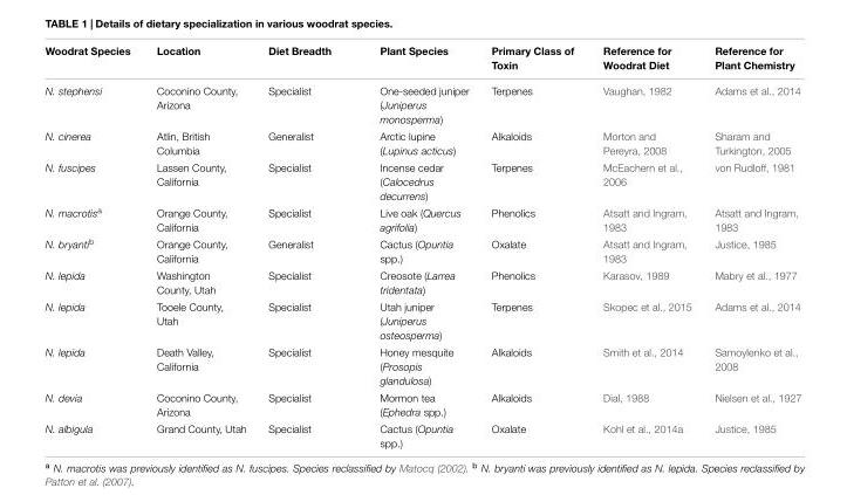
<table><thead><tr><td>Woodrat Species</td><td>Location</td><td>Diet Breadth</td><td>Plant Species</td><td>Primary Class of Toxin</td><td>Reference for Woodrat Diet</td><td>Reference for Plant Chemistry</td></tr></thead><tbody><tr><td>N. stephensi</td><td>Coconino County, Arizona</td><td>Specialist</td><td>One-seeded juniper (Juniperus monosperma)</td><td>Terpenes</td><td>Vaughan, 1982</td><td>Adams et al., 2014</td></tr><tr><td>N. cinerea</td><td>Atlin, British Columbia</td><td>Generalist</td><td>Arctic lupine (Lupinus acticus)</td><td>Alkaloids</td><td>Morton and Pereyra, 2008</td><td>Sharam and Turkington, 2005</td></tr><tr><td>N. fuscipes</td><td>Lassen County, California</td><td>Specialist</td><td>Incense cedar (Calocedrus decurrens)</td><td>Terpenes</td><td>McEachern et al., 2006</td><td>von Rudloff, 1981</td></tr><tr><td>N. macrotis<sup>a</sup></td><td>Orange County, California</td><td>Specialist</td><td>Live oak (Quercus agrifolia)</td><td>Phenolics</td><td>Atsatt and Ingram, 1983</td><td>Atsatt and Ingram, 1983</td></tr><tr><td>N. bryanti<sup>b</sup></td><td>Orange County, California</td><td>Generalist</td><td>Cactus (Opuntia spp.)</td><td>Oxalate</td><td>Atsatt and Ingram, 1983</td><td>Justice, 1985</td></tr><tr><td>N. lepida</td><td>Washington County, Utah</td><td>Specialist</td><td>Creosote (Larrea tridentata)</td><td>Phenolics</td><td>Karasov, 1989</td><td>Mabry et al., 1977</td></tr><tr><td>N. lepida</td><td>Tooele County, Utah</td><td>Specialist</td><td>Utah juniper (Juniperus osteosperma)</td><td>Terpenes</td><td>Skopec et al., 2015</td><td>Adams et al., 2014</td></tr><tr><td>N. lepida</td><td>Death Valley, California</td><td>Specialist</td><td>Honey mesquite (Prosopis glandulosa)</td><td>Alkaloids</td><td>Smith et al., 2014</td><td>Samoylenko et al., 2008</td></tr><tr><td>N. devia</td><td>Coconino County, Arizona</td><td>Specialist</td><td>Mormon tea (Ephedra spp.)</td><td>Alkaloids</td><td>Dial, 1988</td><td>Nielsen et al., 1927</td></tr><tr><td>N. albigula</td><td>Grand County, Utah</td><td>Specialist</td><td>Cactus (Opuntia spp.)</td><td>Oxalate</td><td>Kohl et al., 2014a</td><td>Justice, 1985</td></tr></tbody></table>